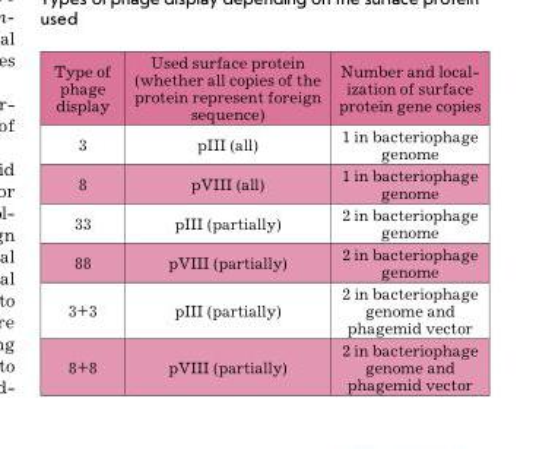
<table><thead><tr><td>Type of phage display</td><td>Used surface protein (whether all copies of the protein represent foreign sequence)</td><td>Number and local- ization of surface protein gene copies</td></tr></thead><tbody><tr><td>3</td><td>pIII (all)</td><td>1 in bacteriophage genome</td></tr><tr><td>8</td><td>pVIII (all)</td><td>1 in bacteriophage genome</td></tr><tr><td>33</td><td>pIII (partially)</td><td>2 in bacteriophage genome</td></tr><tr><td>88</td><td>pVIII (partially)</td><td>2 in bacteriophage genome</td></tr><tr><td>3+3</td><td>pIII (partially)</td><td>2 in bacteriophage genome and phagemid vector</td></tr><tr><td>8+8</td><td>pVIII (partially)</td><td>2 in bacteriophage genome and phagemid vector</td></tr></tbody></table>